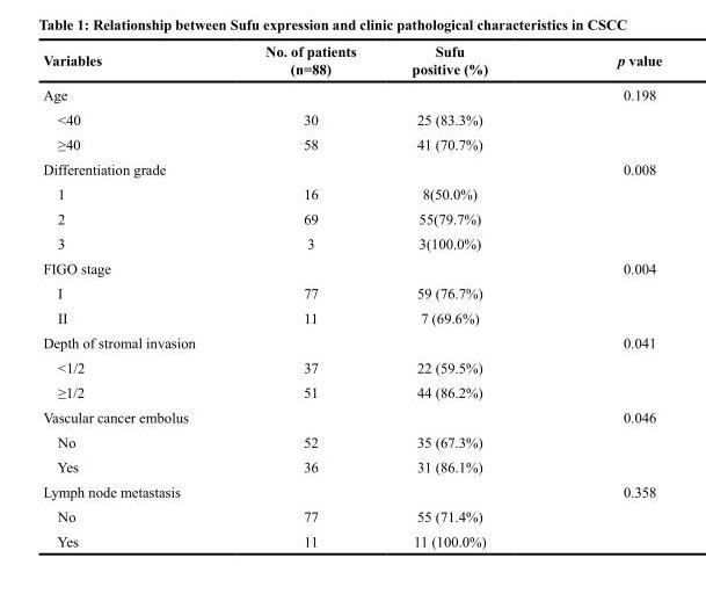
<table><thead><tr><td>Variables</td><td>No. of patients (n=88)</td><td>Sufu positive (%)</td><td>p value</td></tr></thead><tbody><tr><td>Age</td><td></td><td></td><td>0.198</td></tr><tr><td>&lt;40</td><td>30</td><td>25 (83.3%)</td><td></td></tr><tr><td>≥40</td><td>58</td><td>41 (70.7%)</td><td></td></tr><tr><td>Differentiation grade</td><td></td><td></td><td>0.008</td></tr><tr><td>1</td><td>16</td><td>8(50.0%)</td><td></td></tr><tr><td>2</td><td>69</td><td>55(79.7%)</td><td></td></tr><tr><td>3</td><td>3</td><td>3(100.0%)</td><td></td></tr><tr><td>FIGO stage</td><td></td><td></td><td>0.004</td></tr><tr><td>I</td><td>77</td><td>59 (76.7%)</td><td></td></tr><tr><td>II</td><td>11</td><td>7 (69.6%)</td><td></td></tr><tr><td>Depth of stromal invasion</td><td></td><td></td><td>0.041</td></tr><tr><td>&lt;1/2</td><td>37</td><td>22 (59.5%)</td><td></td></tr><tr><td>≥1/2</td><td>51</td><td>44 (86.2%)</td><td></td></tr><tr><td>Vascular cancer embolus</td><td></td><td></td><td>0.046</td></tr><tr><td>No</td><td>52</td><td>35 (67.3%)</td><td></td></tr><tr><td>Yes</td><td>36</td><td>31 (86.1%)</td><td></td></tr><tr><td>Lymph node metastasis</td><td></td><td></td><td>0.358</td></tr><tr><td>No</td><td>77</td><td>55 (71.4%)</td><td></td></tr><tr><td>Yes</td><td>11</td><td>11 (100.0%)</td><td></td></tr></tbody></table>